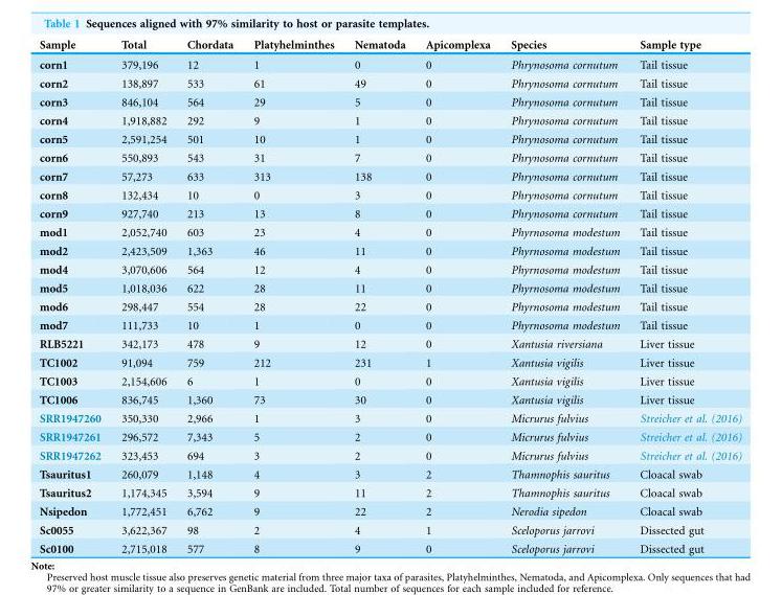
<table><thead><tr><td>Sample</td><td>Total</td><td>Chordata</td><td>Platyhelminthes</td><td>Nematoda</td><td>Apicomplexa</td><td>Species</td><td>Sample type</td></tr></thead><tbody><tr><td>corn1</td><td>379,196</td><td>12</td><td>1</td><td>0</td><td>0</td><td>Phrynosoma cornutum</td><td>Tail tissue</td></tr><tr><td>corn2</td><td>138,897</td><td>533</td><td>61</td><td>49</td><td>0</td><td>Phrynosoma cornutum</td><td>Tail tissue</td></tr><tr><td>corn3</td><td>846,104</td><td>564</td><td>29</td><td>5</td><td>0</td><td>Phrynosoma cornutum</td><td>Tail tissue</td></tr><tr><td>corn4</td><td>1,918,882</td><td>292</td><td>9</td><td>1</td><td>0</td><td>Phrynosoma cornutum</td><td>Tail tissue</td></tr><tr><td>corn5</td><td>2,591,254</td><td>501</td><td>10</td><td>1</td><td>0</td><td>Phrynosoma cornutum</td><td>Tail tissue</td></tr><tr><td>corn6</td><td>550,893</td><td>543</td><td>31</td><td>7</td><td>0</td><td>Phrynosoma cornutum</td><td>Tail tissue</td></tr><tr><td>corn7</td><td>57,273</td><td>633</td><td>313</td><td>138</td><td>0</td><td>Phrynosoma cornutum</td><td>Tail tissue</td></tr><tr><td>corn8</td><td>132,434</td><td>10</td><td>0</td><td>3</td><td>0</td><td>Phrynosoma cornutum</td><td>Tail tissue</td></tr><tr><td>corn9</td><td>927,740</td><td>213</td><td>13</td><td>8</td><td>0</td><td>Phrynosoma cornutum</td><td>Tail tissue</td></tr><tr><td>mod1</td><td>2,052,740</td><td>603</td><td>23</td><td>4</td><td>0</td><td>Phyrnosoma modestum</td><td>Tail tissue</td></tr><tr><td>mod2</td><td>2,423,509</td><td>1,363</td><td>46</td><td>11</td><td>0</td><td>Phyrnosoma modestum</td><td>Tail tissue</td></tr><tr><td>mod4</td><td>3,070,606</td><td>564</td><td>12</td><td>4</td><td>0</td><td>Phyrnosoma modestum</td><td>Tail tissue</td></tr><tr><td>mod5</td><td>1,018,036</td><td>622</td><td>28</td><td>11</td><td>0</td><td>Phyrnosoma modestum</td><td>Tail tissue</td></tr><tr><td>mod6</td><td>298,447</td><td>554</td><td>28</td><td>22</td><td>0</td><td>Phyrnosoma modestum</td><td>Tail tissue</td></tr><tr><td>mod7</td><td>111,733</td><td>10</td><td>1</td><td>0</td><td>0</td><td>Phyrnosoma modestum</td><td>Tail tissue</td></tr><tr><td>RLB5221</td><td>342,173</td><td>478</td><td>9</td><td>12</td><td>0</td><td>Xantusia riversiana</td><td>Liver tissue</td></tr><tr><td>TC1002</td><td>91,094</td><td>759</td><td>212</td><td>231</td><td>1</td><td>Xantusia vigilis</td><td>Liver tissue</td></tr><tr><td>TC1003</td><td>2,154,606</td><td>6</td><td>1</td><td>0</td><td>0</td><td>Xantusia vigilis</td><td>Liver tissue</td></tr><tr><td>TC1006</td><td>836,745</td><td>1,360</td><td>73</td><td>30</td><td>0</td><td>Xantusia vigilis</td><td>Liver tissue</td></tr><tr><td>SRR1947260</td><td>350,330</td><td>2,966</td><td>1</td><td>3</td><td>0</td><td>Micrurus fulvius</td><td>Streicher et al. (2016)</td></tr><tr><td>SRR1947261</td><td>296,572</td><td>7,343</td><td>5</td><td>2</td><td>0</td><td>Micrurus fulvius</td><td>Streicher et al. (2016)</td></tr><tr><td>SRR1947262</td><td>323,453</td><td>694</td><td>3</td><td>2</td><td>0</td><td>Micrurus fulvius</td><td>Streicher et al. (2016)</td></tr><tr><td>Tsauritus1</td><td>260,079</td><td>1,148</td><td>4</td><td>3</td><td>2</td><td>Thamnophis sauritus</td><td>Cloacal swab</td></tr><tr><td>Tsauritus2</td><td>1,174,345</td><td>3,594</td><td>9</td><td>11</td><td>2</td><td>Thamnophis sauritus</td><td>Cloacal swab</td></tr><tr><td>Nsipedon</td><td>1,772,451</td><td>6,762</td><td>9</td><td>22</td><td>2</td><td>Nerodia sipedon</td><td>Cloacal swab</td></tr><tr><td>Sc0055</td><td>3,622,367</td><td>98</td><td>2</td><td>4</td><td>1</td><td>Sceloporus jarrovi</td><td>Dissected gut</td></tr><tr><td>Sc0100</td><td>2,715,018</td><td>577</td><td>8</td><td>9</td><td>0</td><td>Sceloporus jarrovi</td><td>Dissected gut</td></tr></tbody></table>